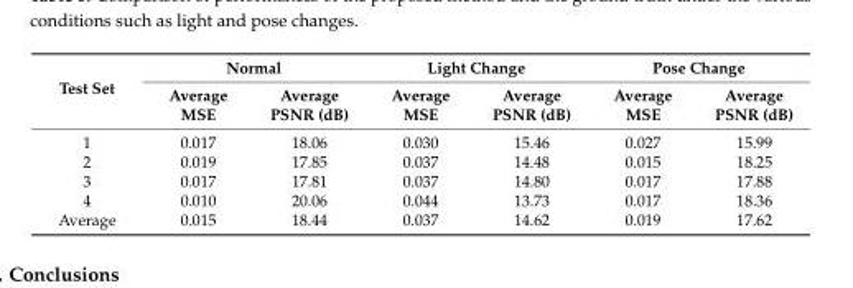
<table><thead><tr><td rowspan="2">Test Set</td><td colspan="2">Normal</td><td colspan="2">Light Change</td><td colspan="2">Pose Change</td></tr><tr><td>Average MSE</td><td>Average PSNR (dB)</td><td>Average MSE</td><td>Average PSNR (dB)</td><td>Average MSE</td><td>Average PSNR (dB)</td></tr></thead><tbody><tr><td>1</td><td>0.017</td><td>18.06</td><td>0.030</td><td>15.46</td><td>0.027</td><td>15.99</td></tr><tr><td>2</td><td>0.019</td><td>17.85</td><td>0.037</td><td>14.48</td><td>0.015</td><td>18.25</td></tr><tr><td>3</td><td>0.017</td><td>17.81</td><td>0.037</td><td>14.80</td><td>0.017</td><td>17.88</td></tr><tr><td>4</td><td>0.010</td><td>20.06</td><td>0.044</td><td>13.73</td><td>0.017</td><td>18.36</td></tr><tr><td>Average</td><td>0.015</td><td>18.44</td><td>0.037</td><td>14.62</td><td>0.019</td><td>17.62</td></tr></tbody></table>